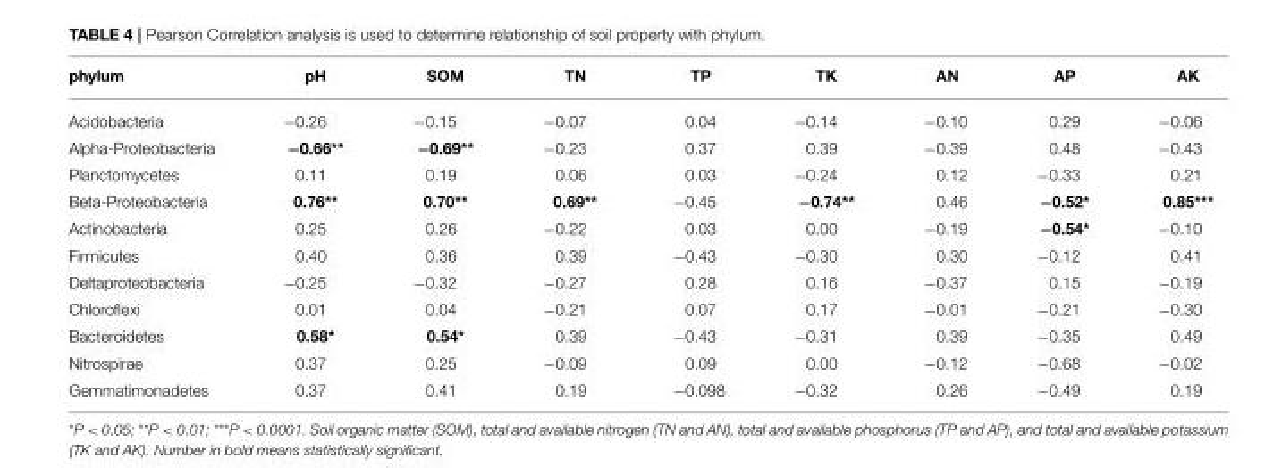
<table><thead><tr><td>phylum</td><td>pH</td><td>SOM</td><td>TN</td><td>TP</td><td>TK</td><td>AN</td><td>AP</td><td>AK</td></tr></thead><tbody><tr><td>Acidobacteria</td><td>−0.26</td><td>−0.15</td><td>−0.07</td><td>0.04</td><td>−0.14</td><td>−0.10</td><td>0.29</td><td>−0.06</td></tr><tr><td>Alpha-Proteobacteria</td><td>−0.66**</td><td>−0.69**</td><td>−0.23</td><td>0.37</td><td>0.39</td><td>−0.39</td><td>0.48</td><td>−0.43</td></tr><tr><td>Planctomycetes</td><td>0.11</td><td>0.19</td><td>0.06</td><td>0.03</td><td>−0.24</td><td>0.12</td><td>−0.33</td><td>0.21</td></tr><tr><td>Beta-Proteobacteria</td><td>0.76**</td><td>0.70**</td><td>0.69**</td><td>−0.45</td><td>−0.74**</td><td>0.46</td><td>−0.52*</td><td>0.85***</td></tr><tr><td>Actinobacteria</td><td>0.25</td><td>0.26</td><td>−0.22</td><td>0.03</td><td>0.00</td><td>−0.19</td><td>−0.54*</td><td>−0.10</td></tr><tr><td>Firmicutes</td><td>0.40</td><td>0.36</td><td>0.39</td><td>−0.43</td><td>−0.30</td><td>0.30</td><td>−0.12</td><td>0.41</td></tr><tr><td>Deltaproteobacteria</td><td>−0.25</td><td>−0.32</td><td>−0.27</td><td>0.28</td><td>0.16</td><td>−0.37</td><td>0.15</td><td>−0.19</td></tr><tr><td>Chloroflexi</td><td>0.01</td><td>0.04</td><td>−0.21</td><td>0.07</td><td>0.17</td><td>−0.01</td><td>−0.21</td><td>−0.30</td></tr><tr><td>Bacteroidetes</td><td>0.58*</td><td>0.54*</td><td>0.39</td><td>−0.43</td><td>−0.31</td><td>0.39</td><td>−0.35</td><td>0.49</td></tr><tr><td>Nitrospirae</td><td>0.37</td><td>0.25</td><td>−0.09</td><td>0.09</td><td>0.00</td><td>−0.12</td><td>−0.68</td><td>−0.02</td></tr><tr><td>Gemmatimonadetes</td><td>0.37</td><td>0.41</td><td>0.19</td><td>−0.098</td><td>−0.32</td><td>0.26</td><td>−0.49</td><td>0.19</td></tr></tbody></table>